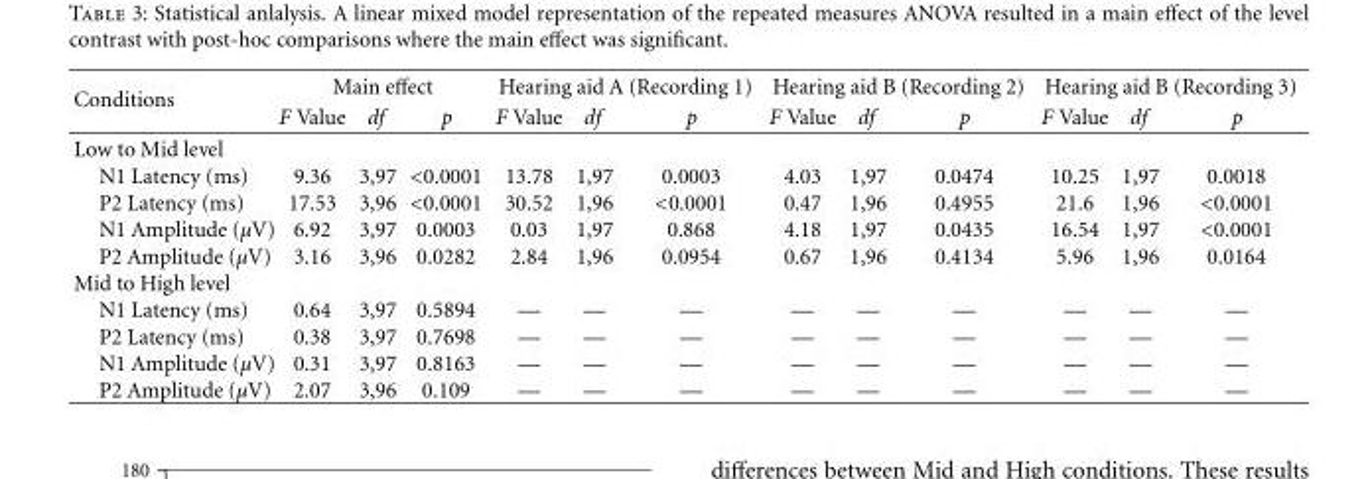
<table><thead><tr><td rowspan="2">Conditions</td><td colspan="3">Main effect</td><td colspan="3">Hearing aid A (Recording 1)</td><td colspan="3">Hearing aid B (Recording 2)</td><td colspan="3">Hearing aid B (Recording 3)</td></tr><tr><td>F Value</td><td>df</td><td>p</td><td>F Value</td><td>df</td><td>p</td><td>F Value</td><td>df</td><td>p</td><td>F Value</td><td>df</td><td>p</td></tr></thead><tbody><tr><td colspan="13">Low to Mid level</td></tr><tr><td>N1 Latency (ms)</td><td>9.36</td><td>3,97</td><td>&lt;0.0001</td><td>13.78</td><td>1,97</td><td>0.0003</td><td>4.03</td><td>1,97</td><td>0.0474</td><td>10.25</td><td>1,97</td><td>0.0018</td></tr><tr><td>P2 Latency (ms)</td><td>17.53</td><td>3,96</td><td>&lt;0.0001</td><td>30.52</td><td>1,96</td><td>&lt;0.0001</td><td>0.47</td><td>1,96</td><td>0.4955</td><td>21.6</td><td>1,96</td><td>&lt;0.0001</td></tr><tr><td>N1 Amplitude (μV)</td><td>6.92</td><td>3,97</td><td>0.0003</td><td>0.03</td><td>1,97</td><td>0.868</td><td>4.18</td><td>1,97</td><td>0.0435</td><td>16.54</td><td>1,97</td><td>&lt;0.0001</td></tr><tr><td>P2 Amplitude (μV)</td><td>3.16</td><td>3,96</td><td>0.0282</td><td>2.84</td><td>1,96</td><td>0.0954</td><td>0.67</td><td>1,96</td><td>0.4134</td><td>5.96</td><td>1,96</td><td>0.0164</td></tr><tr><td colspan="13">Mid to High level</td></tr><tr><td>N1 Latency (ms)</td><td>0.64</td><td>3,97</td><td>0.5894</td><td>—</td><td>—</td><td>—</td><td>—</td><td>—</td><td>—</td><td>—</td><td>—</td><td>—</td></tr><tr><td>P2 Latency (ms)</td><td>0.38</td><td>3,97</td><td>0.7698</td><td>—</td><td>—</td><td>—</td><td>—</td><td>—</td><td>—</td><td>—</td><td>—</td><td>—</td></tr><tr><td>N1 Amplitude (μV)</td><td>0.31</td><td>3,97</td><td>0.8163</td><td>—</td><td>—</td><td>—</td><td>—</td><td>—</td><td>—</td><td>—</td><td>—</td><td>—</td></tr><tr><td>P2 Amplitude (μV)</td><td>2.07</td><td>3,96</td><td>0.109</td><td>—</td><td>—</td><td>—</td><td>—</td><td>—</td><td>—</td><td>—</td><td>—</td><td>—</td></tr></tbody></table>